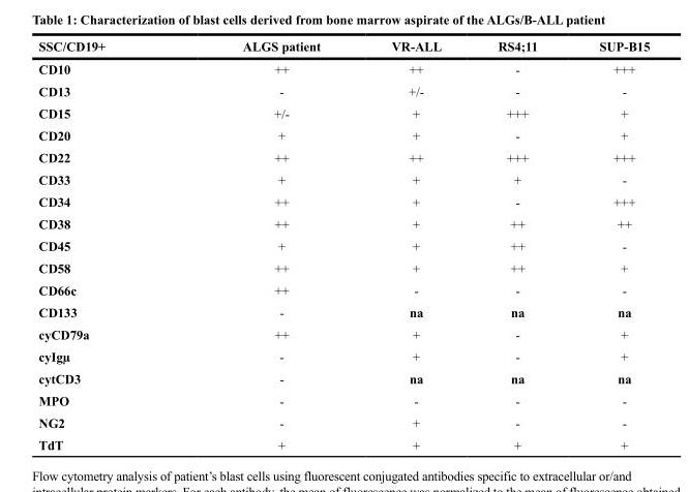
<table><thead><tr><td>SSC/CD19+</td><td>ALGS patient</td><td>VR-ALL</td><td>RS4;11</td><td>SUP-B15</td></tr></thead><tbody><tr><td>CD10</td><td>++</td><td>++</td><td>-</td><td>+++</td></tr><tr><td>CD13</td><td>-</td><td>+/-</td><td>-</td><td>-</td></tr><tr><td>CD15</td><td>+/-</td><td>+</td><td>+++</td><td>+</td></tr><tr><td>CD20</td><td>+</td><td>+</td><td>-</td><td>+</td></tr><tr><td>CD22</td><td>++</td><td>++</td><td>+++</td><td>+++</td></tr><tr><td>CD33</td><td>+</td><td>+</td><td>+</td><td>-</td></tr><tr><td>CD34</td><td>++</td><td>+</td><td>-</td><td>+++</td></tr><tr><td>CD38</td><td>++</td><td>+</td><td>++</td><td>++</td></tr><tr><td>CD45</td><td>+</td><td>+</td><td>++</td><td>-</td></tr><tr><td>CD58</td><td>++</td><td>+</td><td>++</td><td>+</td></tr><tr><td>CD66c</td><td>++</td><td>-</td><td>-</td><td>-</td></tr><tr><td>CD133</td><td>-</td><td>na</td><td>na</td><td>na</td></tr><tr><td>cyCD79a</td><td>++</td><td>+</td><td>-</td><td>+</td></tr><tr><td>cyIgµ</td><td>-</td><td>+</td><td>-</td><td>+</td></tr><tr><td>cytCD3</td><td>-</td><td>na</td><td>na</td><td>na</td></tr><tr><td>MPO</td><td>-</td><td>-</td><td>-</td><td>-</td></tr><tr><td>NG2</td><td>-</td><td>+</td><td>-</td><td>-</td></tr><tr><td>TdT</td><td>+</td><td>+</td><td>+</td><td>+</td></tr></tbody></table>